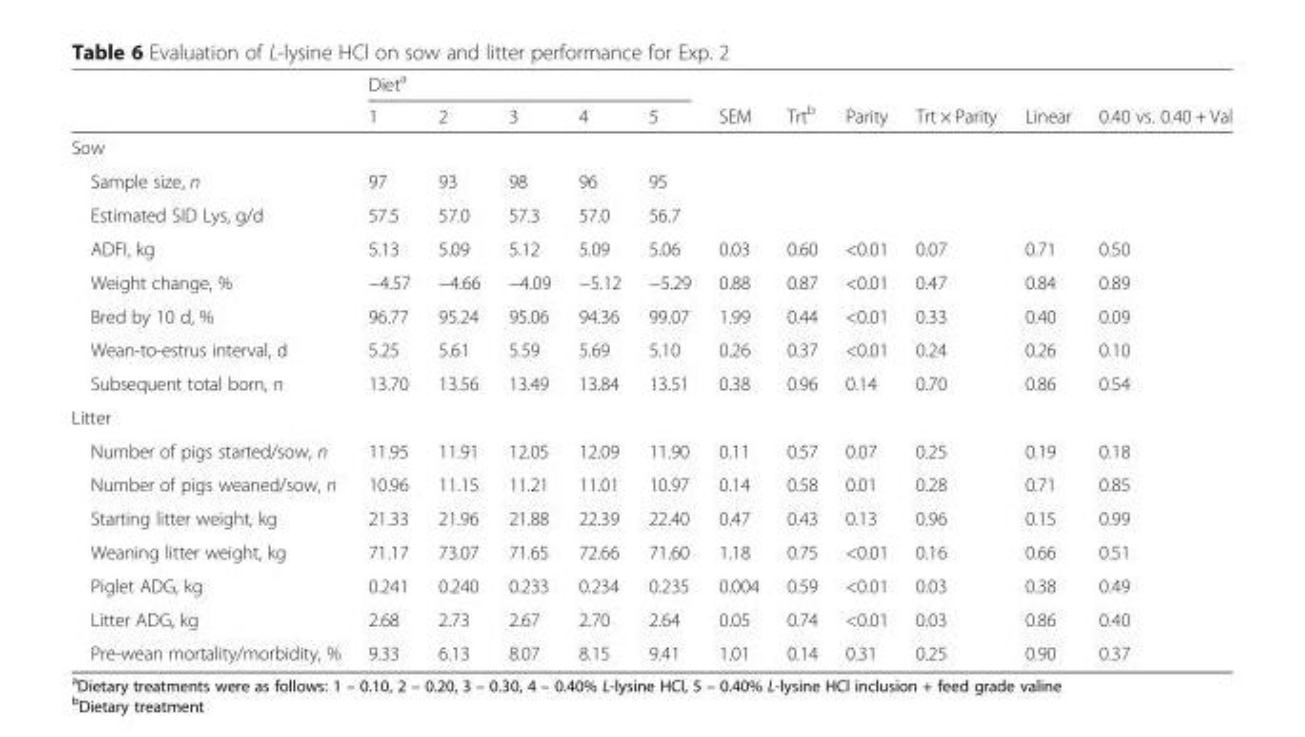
<table><thead><tr><td rowspan="2"></td><td colspan="5">Diet<sup>a</sup></td><td rowspan="2">SEM</td><td rowspan="2">Trt<sup>b</sup></td><td rowspan="2">Parity</td><td rowspan="2">Trt × Parity</td><td rowspan="2">Linear</td><td rowspan="2">0.40 vs. 0.40 + Val</td></tr><tr><td>1</td><td>2</td><td>3</td><td>4</td><td>5</td></tr></thead><tbody><tr><td colspan="12">Sow</td></tr><tr><td>Sample size, n</td><td>97</td><td>93</td><td>98</td><td>96</td><td>95</td><td></td><td></td><td></td><td></td><td></td><td></td></tr><tr><td>Estimated SID Lys, g/d</td><td>57.5</td><td>57.0</td><td>57.3</td><td>57.0</td><td>56.7</td><td></td><td></td><td></td><td></td><td></td><td></td></tr><tr><td>ADFI, kg</td><td>5.13</td><td>5.09</td><td>5.12</td><td>5.09</td><td>5.06</td><td>0.03</td><td>0.60</td><td>&lt;0.01</td><td>0.07</td><td>0.71</td><td>0.50</td></tr><tr><td>Weight change, %</td><td>−4.57</td><td>−4.66</td><td>−4.09</td><td>−5.12</td><td>−5.29</td><td>0.88</td><td>0.87</td><td>&lt;0.01</td><td>0.47</td><td>0.84</td><td>0.89</td></tr><tr><td>Bred by 10 d, %</td><td>96.77</td><td>95.24</td><td>95.06</td><td>94.36</td><td>99.07</td><td>1.99</td><td>0.44</td><td>&lt;0.01</td><td>0.33</td><td>0.40</td><td>0.09</td></tr><tr><td>Wean-to-estrus interval, d</td><td>5.25</td><td>5.61</td><td>5.59</td><td>5.69</td><td>5.10</td><td>0.26</td><td>0.37</td><td>&lt;0.01</td><td>0.24</td><td>0.26</td><td>0.10</td></tr><tr><td>Subsequent total born, n</td><td>13.70</td><td>13.56</td><td>13.49</td><td>13.84</td><td>13.51</td><td>0.38</td><td>0.96</td><td>0.14</td><td>0.70</td><td>0.86</td><td>0.54</td></tr><tr><td colspan="12">Litter</td></tr><tr><td>Number of pigs started/sow, n</td><td>11.95</td><td>11.91</td><td>12.05</td><td>12.09</td><td>11.90</td><td>0.11</td><td>0.57</td><td>0.07</td><td>0.25</td><td>0.19</td><td>0.18</td></tr><tr><td>Number of pigs weaned/sow, n</td><td>10.96</td><td>11.15</td><td>11.21</td><td>11.01</td><td>10.97</td><td>0.14</td><td>0.58</td><td>0.01</td><td>0.28</td><td>0.71</td><td>0.85</td></tr><tr><td>Starting litter weight, kg</td><td>21.33</td><td>21.96</td><td>21.88</td><td>22.39</td><td>22.40</td><td>0.47</td><td>0.43</td><td>0.13</td><td>0.96</td><td>0.15</td><td>0.99</td></tr><tr><td>Weaning litter weight, kg</td><td>71.17</td><td>73.07</td><td>71.65</td><td>72.66</td><td>71.60</td><td>1.18</td><td>0.75</td><td>&lt;0.01</td><td>0.16</td><td>0.66</td><td>0.51</td></tr><tr><td>Piglet ADG, kg</td><td>0.241</td><td>0.240</td><td>0.233</td><td>0.234</td><td>0.235</td><td>0.004</td><td>0.59</td><td>&lt;0.01</td><td>0.03</td><td>0.38</td><td>0.49</td></tr><tr><td>Litter ADG, kg</td><td>2.68</td><td>2.73</td><td>2.67</td><td>2.70</td><td>2.64</td><td>0.05</td><td>0.74</td><td>&lt;0.01</td><td>0.03</td><td>0.86</td><td>0.40</td></tr><tr><td>Pre-wean mortality/morbidity, %</td><td>9.33</td><td>6.13</td><td>8.07</td><td>8.15</td><td>9.41</td><td>1.01</td><td>0.14</td><td>0.31</td><td>0.25</td><td>0.90</td><td>0.37</td></tr></tbody></table>